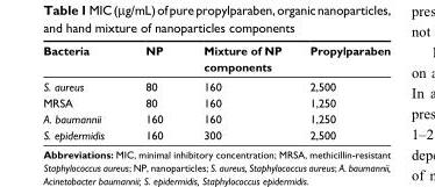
<table><thead><tr><td>Bacteria</td><td>NP</td><td>Mixture of NP components</td><td>Propylparaben</td></tr></thead><tbody><tr><td>S. aureus</td><td>80</td><td>160</td><td>2,500</td></tr><tr><td>Mrsa</td><td>80</td><td>160</td><td>1,250</td></tr><tr><td>A. baumannii</td><td>160</td><td>160</td><td>1,250</td></tr><tr><td>S. epidermidis</td><td>160</td><td>300</td><td>2,500</td></tr></tbody></table>